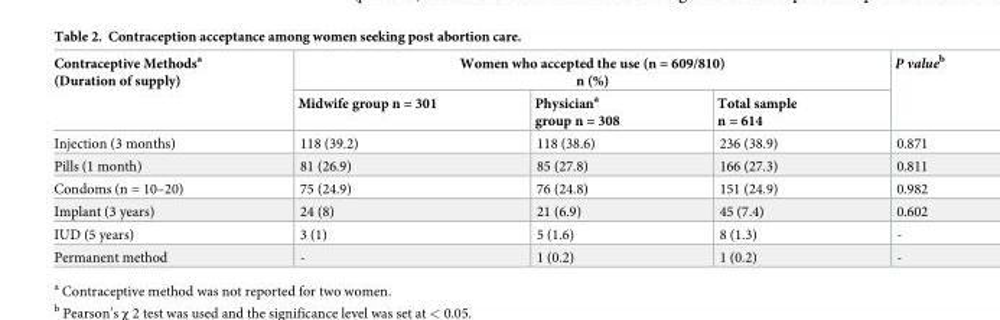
<table><thead><tr><td rowspan="2">Contraceptive Methods<sup>a</sup> (Duration of supply)</td><td colspan="3">Women who accepted the use (n = 609/810) n (%)</td><td rowspan="2">P value<sup>b</sup></td></tr><tr><td>Midwife group n = 301</td><td>Physician<sup>a</sup> group n = 308</td><td>Total sample n = 614</td></tr></thead><tbody><tr><td>Injection (3 months)</td><td>118 (39.2)</td><td>118 (38.6)</td><td>236 (38.9)</td><td>0.871</td></tr><tr><td>Pills (1 month)</td><td>81 (26.9)</td><td>85 (27.8)</td><td>166 (27.3)</td><td>0.811</td></tr><tr><td>Condoms (n = 10–20)</td><td>75 (24.9)</td><td>76 (24.8)</td><td>151 (24.9)</td><td>0.982</td></tr><tr><td>Implant (3 years)</td><td>24 (8)</td><td>21 (6.9)</td><td>45 (7.4)</td><td>0.602</td></tr><tr><td>IUD (5 years)</td><td>3 (1)</td><td>5 (1.6)</td><td>8 (1.3)</td><td>-</td></tr><tr><td>Permanent method</td><td>-</td><td>1 (0.2)</td><td>1 (0.2)</td><td>-</td></tr></tbody></table>